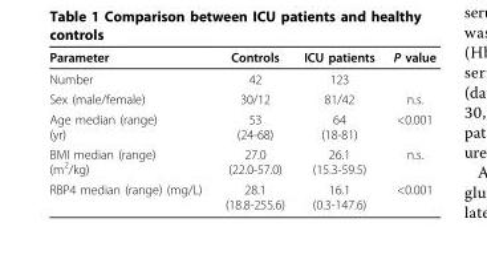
<table><thead><tr><td>Parameter</td><td>Controls</td><td>ICU patients</td><td>P value</td></tr></thead><tbody><tr><td>Number</td><td>42</td><td>123</td><td></td></tr><tr><td>Sex (male/female)</td><td>30/12</td><td>81/42</td><td>n.s.</td></tr><tr><td>Age median (range) (yr)</td><td>53 (24-68)</td><td>64 (18-81)</td><td>&lt;0.001</td></tr><tr><td>BMI median (range) (m<sup>2</sup>/kg)</td><td>27.0 (22.0-57.0)</td><td>26.1 (15.3-59.5)</td><td>n.s.</td></tr><tr><td>RBP4 median (range) (mg/L)</td><td>28.1 (18.8-255.6)</td><td>16.1 (0.3-147.6)</td><td>&lt;0.001</td></tr></tbody></table>